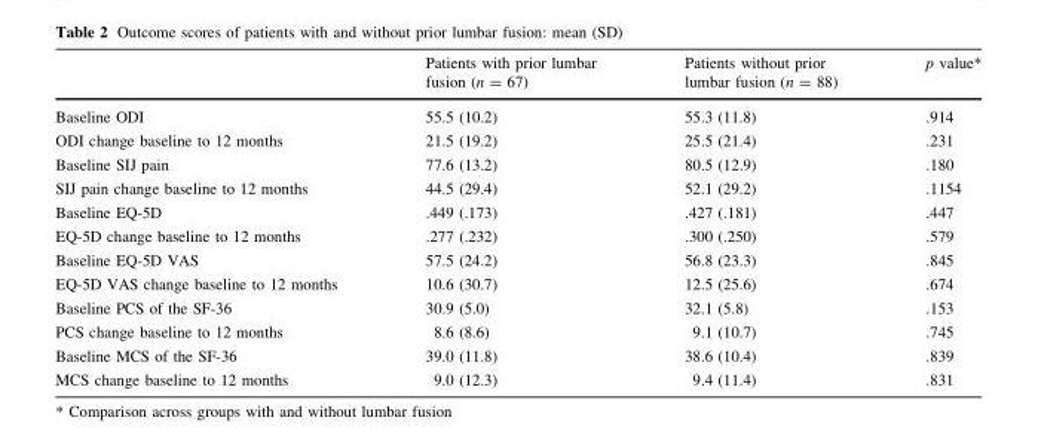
<table><thead><tr><td></td><td>Patients with prior lumbar fusion (n = 67)</td><td>Patients without prior lumbar fusion (n = 88)</td><td>p value*</td></tr></thead><tbody><tr><td>Baseline ODI</td><td>55.5 (10.2)</td><td>55.3 (11.8)</td><td>.914</td></tr><tr><td>ODI change baseline to 12 months</td><td>21.5 (19.2)</td><td>25.5 (21.4)</td><td>.231</td></tr><tr><td>Baseline SIJ pain</td><td>77.6 (13.2)</td><td>80.5 (12.9)</td><td>.180</td></tr><tr><td>SIJ pain change baseline to 12 months</td><td>44.5 (29.4)</td><td>52.1 (29.2)</td><td>.1154</td></tr><tr><td>Baseline EQ-5D</td><td>.449 (.173)</td><td>.427 (.181)</td><td>.447</td></tr><tr><td>EQ-5D change baseline to 12 months</td><td>.277 (.232)</td><td>.300 (.250)</td><td>.579</td></tr><tr><td>Baseline EQ-5D VAS</td><td>57.5 (24.2)</td><td>56.8 (23.3)</td><td>.845</td></tr><tr><td>EQ-5D VAS change baseline to 12 months</td><td>10.6 (30.7)</td><td>12.5 (25.6)</td><td>.674</td></tr><tr><td>Baseline PCS of the SF-36</td><td>30.9 (5.0)</td><td>32.1 (5.8)</td><td>.153</td></tr><tr><td>PCS change baseline to 12 months</td><td>8.6 (8.6)</td><td>9.1 (10.7)</td><td>.745</td></tr><tr><td>Baseline MCS of the SF-36</td><td>39.0 (11.8)</td><td>38.6 (10.4)</td><td>.839</td></tr><tr><td>MCS change baseline to 12 months</td><td>9.0 (12.3)</td><td>9.4 (11.4)</td><td>.831</td></tr></tbody></table>